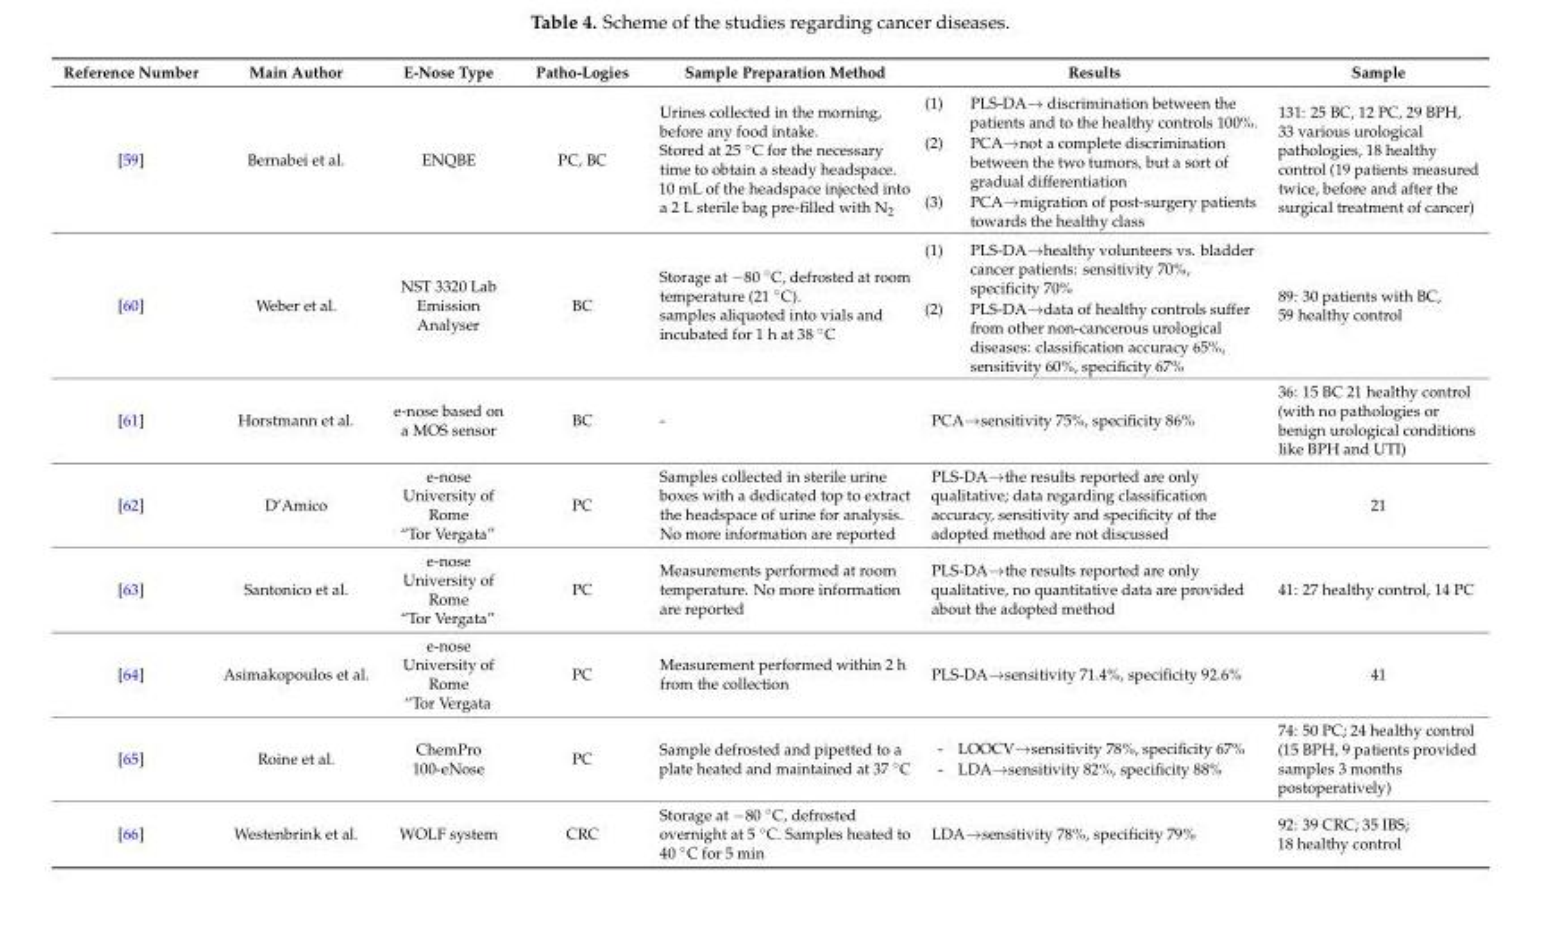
<table><thead><tr><td>Reference Number</td><td>Main Author</td><td>E-Nose Type</td><td>Patho-Logies</td><td>Sample Preparation Method</td><td>Results</td><td>Sample</td></tr></thead><tbody><tr><td>[59]</td><td>Bernabei et al.</td><td>ENQBE</td><td>PC, BC</td><td>Urines collected in the morning, before any food intake. Stored at 25 ◦C for the necessary time to obtain a steady headspace. 10 mL of the headspace injected into a 2 L sterile bag pre-filled with N2</td><td>(1) PLS-DA→ discrimination between the patients and to the healthy controls 100%. (2) PCA→not a complete discrimination between the two tumors, but a sort of gradual differentiation (3) PCA→migration of post-surgery patients towards the healthy class</td><td>131: 25 BC, 12 PC, 29 BPH, 33 various urological pathologies, 18 healthy control (19 patients measured twice, before and after the surgical treatment of cancer)</td></tr><tr><td>[60]</td><td>Weber et al.</td><td>NST 3320 Lab Emission Analyser</td><td>BC</td><td>Storage at −80 ◦C, defrosted at room temperature (21 ◦C). samples aliquoted into vials and incubated for 1 h at 38 ◦C</td><td>(1) PLS-DA→healthy volunteers vs. bladder cancer patients: sensitivity 70%, specificity 70% (2) PLS-DA→data of healthy controls suffer from other non-cancerous urological diseases: classification accuracy 65%, sensitivity 60%, specificity 67%</td><td>89: 30 patients with BC, 59 healthy control</td></tr><tr><td>[61]</td><td>Horstmann et al.</td><td>e-nose based on a MOS sensor</td><td>BC</td><td>-</td><td>PCA→sensitivity 75%, specificity 86%</td><td>36: 15 BC 21 healthy control (with no pathologies or benign urological conditions like BPH and UTI)</td></tr><tr><td>[62]</td><td>D’Amico</td><td>e-nose University of Rome “Tor Vergata”</td><td>PC</td><td>Samples collected in sterile urine boxes with a dedicated top to extract the headspace of urine for analysis. No more information are reported</td><td>PLS-DA→the results reported are only qualitative; data regarding classification accuracy, sensitivity and specificity of the adopted method are not discussed</td><td>21</td></tr><tr><td>[63]</td><td>Santonico et al.</td><td>e-nose University of Rome “Tor Vergata”</td><td>PC</td><td>Measurements performed at room temperature. No more information are reported</td><td>PLS-DA→the results reported are only qualitative, no quantitative data are provided about the adopted method</td><td>41: 27 healthy control, 14 PC</td></tr><tr><td>[64]</td><td>Asimakopoulos et al.</td><td>e-nose University of Rome “Tor Vergata</td><td>PC</td><td>Measurement performed within 2 h from the collection</td><td>PLS-DA→sensitivity 71.4%, specificity 92.6%</td><td>41</td></tr><tr><td>[65]</td><td>Roine et al.</td><td>ChemPro 100-eNose</td><td>PC</td><td>Sample defrosted and pipetted to a plate heated and maintained at 37 ◦C</td><td>- LOOCV→sensitivity 78%, specificity 67% - LDA→sensitivity 82%, specificity 88%</td><td>74: 50 PC; 24 healthy control (15 BPH, 9 patients provided samples 3 months postoperatively)</td></tr><tr><td>[66]</td><td>Westenbrink et al.</td><td>WOLF system</td><td>CRC</td><td>Storage at −80 ◦C, defrosted overnight at 5 ◦C. Samples heated to 40 ◦C for 5 min</td><td>LDA→sensitivity 78%, specificity 79%</td><td>92: 39 CRC; 35 IBS; 18 healthy control</td></tr></tbody></table>